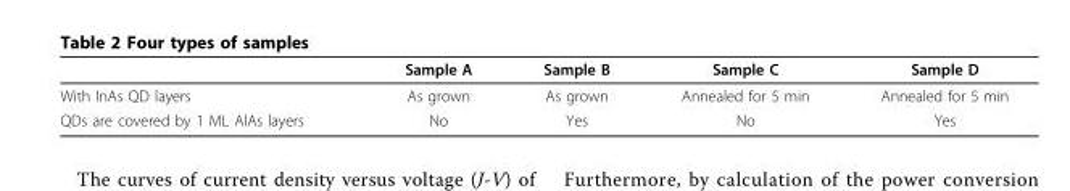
<table><thead><tr><td></td><td>Sample A</td><td>Sample B</td><td>Sample C</td><td>Sample D</td></tr></thead><tbody><tr><td>With InAs QD layers</td><td>As grown</td><td>As grown</td><td>Annealed for 5 min</td><td>Annealed for 5 min</td></tr><tr><td>QDs are covered by 1 ML AlAs layers</td><td>No</td><td>Yes</td><td>No</td><td>Yes</td></tr></tbody></table>